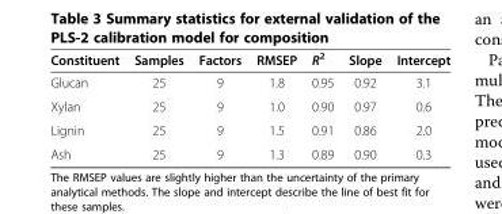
<table><thead><tr><td>Constituent</td><td>Samples</td><td>Factors</td><td>RMSEP</td><td>R<sup>2</sup></td><td>Slope</td><td>Intercept</td></tr></thead><tbody><tr><td>Glucan</td><td>25</td><td>9</td><td>1.8</td><td>0.95</td><td>0.92</td><td>3.1</td></tr><tr><td>Xylan</td><td>25</td><td>9</td><td>1.0</td><td>0.90</td><td>0.97</td><td>0.6</td></tr><tr><td>Lignin</td><td>25</td><td>9</td><td>1.5</td><td>0.91</td><td>0.86</td><td>2.0</td></tr><tr><td>Ash</td><td>25</td><td>9</td><td>1.3</td><td>0.89</td><td>0.90</td><td>0.3</td></tr></tbody></table>